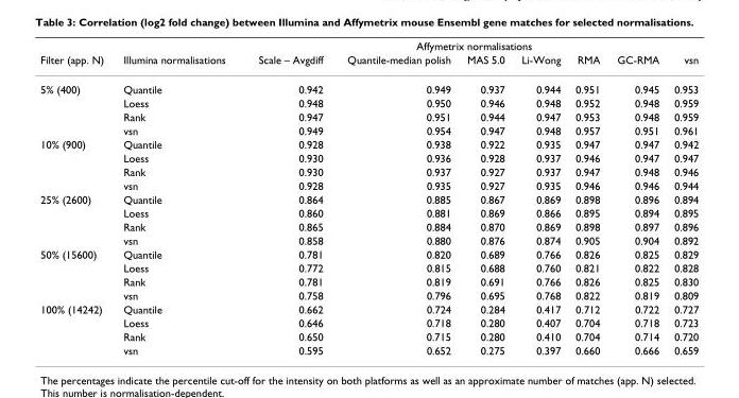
<table><thead><tr><td rowspan="2">Filter (app. N)</td><td rowspan="2">Illumina normalisations</td><td colspan="7">Affymetrix normalisations</td></tr><tr><td>Scale – Avgdiff</td><td>Quantile-median polish</td><td>MAS 5.0</td><td>Li-Wong</td><td>RMA</td><td>GC-RMA</td><td>vsn</td></tr></thead><tbody><tr><td rowspan="4">5% (400)</td><td>Quantile</td><td>0.942</td><td>0.949</td><td>0.937</td><td>0.944</td><td>0.951</td><td>0.945</td><td>0.953</td></tr><tr><td>Loess</td><td>0.948</td><td>0.950</td><td>0.946</td><td>0.948</td><td>0.952</td><td>0.948</td><td>0.959</td></tr><tr><td>Rank</td><td>0.947</td><td>0.951</td><td>0.944</td><td>0.947</td><td>0.953</td><td>0.948</td><td>0.959</td></tr><tr><td>vsn</td><td>0.949</td><td>0.954</td><td>0.947</td><td>0.948</td><td>0.957</td><td>0.951</td><td>0.961</td></tr><tr><td rowspan="4">10% (900)</td><td>Quantile</td><td>0.928</td><td>0.938</td><td>0.922</td><td>0.935</td><td>0.947</td><td>0.947</td><td>0.942</td></tr><tr><td>Loess</td><td>0.930</td><td>0.936</td><td>0.928</td><td>0.937</td><td>0.946</td><td>0.947</td><td>0.947</td></tr><tr><td>Rank</td><td>0.930</td><td>0.937</td><td>0.927</td><td>0.937</td><td>0.947</td><td>0.948</td><td>0.946</td></tr><tr><td>vsn</td><td>0.928</td><td>0.935</td><td>0.927</td><td>0.935</td><td>0.946</td><td>0.946</td><td>0.944</td></tr><tr><td rowspan="4">25% (2600)</td><td>Quantile</td><td>0.864</td><td>0.885</td><td>0.867</td><td>0.869</td><td>0.898</td><td>0.896</td><td>0.894</td></tr><tr><td>Loess</td><td>0.860</td><td>0.881</td><td>0.869</td><td>0.866</td><td>0.895</td><td>0.894</td><td>0.895</td></tr><tr><td>Rank</td><td>0.865</td><td>0.884</td><td>0.870</td><td>0.869</td><td>0.898</td><td>0.897</td><td>0.896</td></tr><tr><td>vsn</td><td>0.858</td><td>0.880</td><td>0.876</td><td>0.874</td><td>0.905</td><td>0.904</td><td>0.892</td></tr><tr><td rowspan="4">50% (15600)</td><td>Quantile</td><td>0.781</td><td>0.820</td><td>0.689</td><td>0.766</td><td>0.826</td><td>0.825</td><td>0.829</td></tr><tr><td>Loess</td><td>0.772</td><td>0.815</td><td>0.688</td><td>0.760</td><td>0.821</td><td>0.822</td><td>0.828</td></tr><tr><td>Rank</td><td>0.781</td><td>0.819</td><td>0.691</td><td>0.766</td><td>0.826</td><td>0.825</td><td>0.830</td></tr><tr><td>vsn</td><td>0.758</td><td>0.796</td><td>0.695</td><td>0.768</td><td>0.822</td><td>0.819</td><td>0.809</td></tr><tr><td rowspan="4">100% (14242)</td><td>Quantile</td><td>0.662</td><td>0.724</td><td>0.284</td><td>0.417</td><td>0.712</td><td>0.722</td><td>0.727</td></tr><tr><td>Loess</td><td>0.646</td><td>0.718</td><td>0.280</td><td>0.407</td><td>0.704</td><td>0.718</td><td>0.723</td></tr><tr><td>Rank</td><td>0.650</td><td>0.715</td><td>0.280</td><td>0.410</td><td>0.704</td><td>0.714</td><td>0.720</td></tr><tr><td>vsn</td><td>0.595</td><td>0.652</td><td>0.275</td><td>0.397</td><td>0.660</td><td>0.666</td><td>0.659</td></tr></tbody></table>